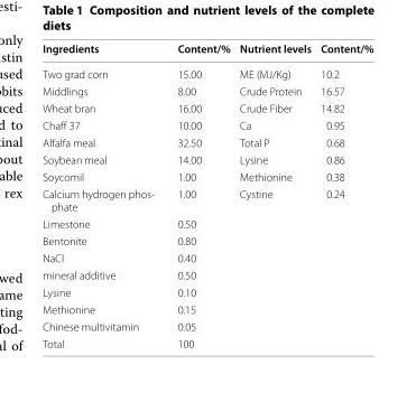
<table><thead><tr><td>Ingredients</td><td>Content/%</td><td>Nutrient levels</td><td>Content/%</td></tr></thead><tbody><tr><td>Two grad corn</td><td>15.00</td><td>ME (MJ/Kg)</td><td>10.2</td></tr><tr><td>Middlings</td><td>8.00</td><td>Crude Protein</td><td>16.57</td></tr><tr><td>Wheat bran</td><td>16.00</td><td>Crude Fiber</td><td>14.82</td></tr><tr><td>Chaff 37</td><td>10.00</td><td>Ca</td><td>0.95</td></tr><tr><td>Alfalfa meal</td><td>32.50</td><td>Total P</td><td>0.68</td></tr><tr><td>Soybean meal</td><td>14.00</td><td>Lysine</td><td>0.86</td></tr><tr><td>Soycomil</td><td>1.00</td><td>Methionine</td><td>0.38</td></tr><tr><td>Calcium hydrogen phos- phate</td><td>1.00</td><td>Cystine</td><td>0.24</td></tr><tr><td>Limestone</td><td>0.50</td><td></td><td></td></tr><tr><td>Bentonite</td><td>0.80</td><td></td><td></td></tr><tr><td>NaCl</td><td>0.40</td><td></td><td></td></tr><tr><td>mineral additive</td><td>0.50</td><td></td><td></td></tr><tr><td>Lysine</td><td>0.10</td><td></td><td></td></tr><tr><td>Methionine</td><td>0.15</td><td></td><td></td></tr><tr><td>Chinese multivitamin</td><td>0.05</td><td></td><td></td></tr><tr><td>Total</td><td>100</td><td></td><td></td></tr></tbody></table>